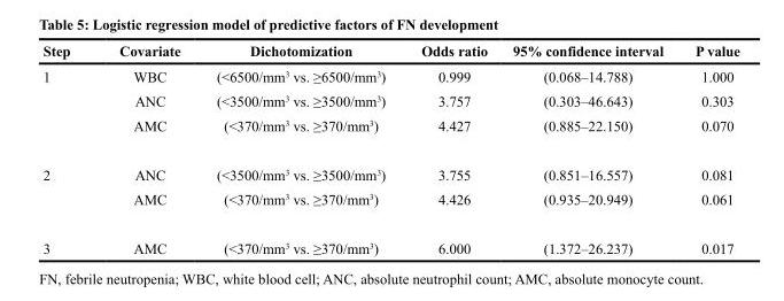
<table><thead><tr><td>Step</td><td>Covariate</td><td>Dichotomization</td><td>Odds ratio</td><td>95% confidence interval</td><td>P value</td></tr></thead><tbody><tr><td rowspan="3">1</td><td>WBC</td><td>(&lt;6500/mm<sup>3</sup> vs. ≥6500/mm<sup>3</sup>)</td><td>0.999</td><td>(0.068–14.788)</td><td>1.000</td></tr><tr><td>ANC</td><td>(&lt;3500/mm<sup>3</sup> vs. ≥3500/mm<sup>3</sup>)</td><td>3.757</td><td>(0.303–46.643)</td><td>0.303</td></tr><tr><td>AMC</td><td>(&lt;370/mm<sup>3</sup> vs. ≥370/mm<sup>3</sup>)</td><td>4.427</td><td>(0.885–22.150)</td><td>0.070</td></tr><tr><td rowspan="2">2</td><td>ANC</td><td>(&lt;3500/mm<sup>3</sup> vs. ≥3500/mm<sup>3</sup>)</td><td>3.755</td><td>(0.851–16.557)</td><td>0.081</td></tr><tr><td>AMC</td><td>(&lt;370/mm<sup>3</sup> vs. ≥370/mm<sup>3</sup>)</td><td>4.426</td><td>(0.935–20.949)</td><td>0.061</td></tr><tr><td>3</td><td>AMC</td><td>(&lt;370/mm<sup>3</sup> vs. ≥370/mm<sup>3</sup>)</td><td>6.000</td><td>(1.372–26.237)</td><td>0.017</td></tr></tbody></table>